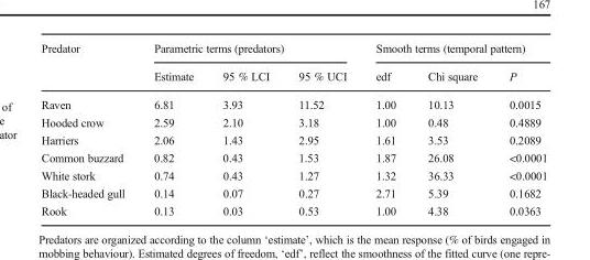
<table><thead><tr><td rowspan="2">Predator</td><td colspan="3">Parametric terms (predators)</td><td colspan="3">Smooth terms (temporal pattern)</td></tr><tr><td>Estimate</td><td>95 % LCI</td><td>95 % UCI</td><td>edf</td><td>Chi square</td><td>P</td></tr></thead><tbody><tr><td>Raven</td><td>6.81</td><td>3.93</td><td>11.52</td><td>1.00</td><td>10.13</td><td>0.0015</td></tr><tr><td>Hooded crow</td><td>2.59</td><td>2.10</td><td>3.18</td><td>1.00</td><td>0.48</td><td>0.4889</td></tr><tr><td>Harriers</td><td>2.06</td><td>1.43</td><td>2.95</td><td>1.61</td><td>3.53</td><td>0.2089</td></tr><tr><td>Common buzzard</td><td>0.82</td><td>0.43</td><td>1.53</td><td>1.87</td><td>26.08</td><td>&lt;0.0001</td></tr><tr><td>White stork</td><td>0.74</td><td>0.43</td><td>1.27</td><td>1.32</td><td>36.33</td><td>&lt;0.0001</td></tr><tr><td>Black-headed gull</td><td>0.14</td><td>0.07</td><td>0.27</td><td>2.71</td><td>5.39</td><td>0.1682</td></tr><tr><td>Rook</td><td>0.13</td><td>0.03</td><td>0.53</td><td>1.00</td><td>4.38</td><td>0.0363</td></tr></tbody></table>